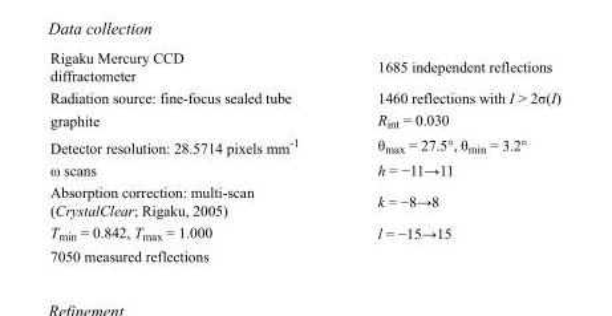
<table><tbody><tr><td>Rigaku Mercury CCD diffractometer</td><td>1685 independent reflections</td></tr><tr><td>Radiation source: fine-focus sealed tube</td><td>1460 reflections with I &gt; 2σ(I)</td></tr><tr><td>graphite</td><td>R<sub>int</sub> = 0.030</td></tr><tr><td>Detector resolution: 28.5714 pixels mm<sup>-1</sup></td><td>θ<sub>max</sub> = 27.5°, θ<sub>min</sub> = 3.2°</td></tr><tr><td>ω scans</td><td>h = −11→11</td></tr><tr><td>Absorption correction: multi-scan (CrystalClear; Rigaku, 2005)</td><td>k = −8→8</td></tr><tr><td>T<sub>min</sub> = 0.842, T<sub>max</sub> = 1.000</td><td>l = −15→15</td></tr><tr><td>7050 measured reflections</td><td></td></tr></tbody></table>